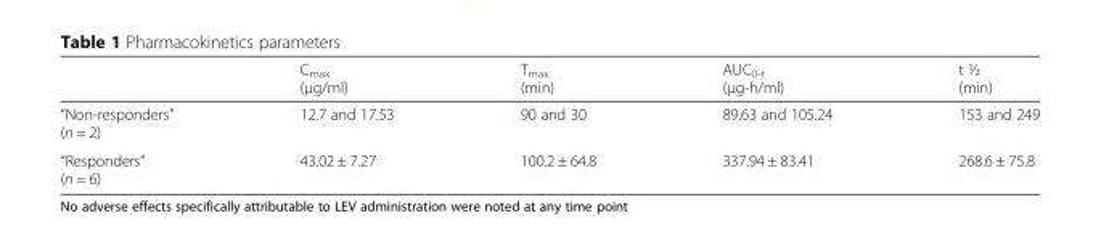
<table><thead><tr><td></td><td>C<sub>max</sub> (μg/ml)</td><td>T<sub>max</sub> (min)</td><td>AUC<sub>0-t</sub> (μg-h/ml)</td><td>t ½ (min)</td></tr></thead><tbody><tr><td>“Non-responders” (n = 2)</td><td>12.7 and 17.53</td><td>90 and 30</td><td>89.63 and 105.24</td><td>153 and 249</td></tr><tr><td>“Responders” (n = 6)</td><td>43.02 ± 7.27</td><td>100.2 ± 64.8</td><td>337.94 ± 83.41</td><td>268.6 ± 75.8</td></tr></tbody></table>